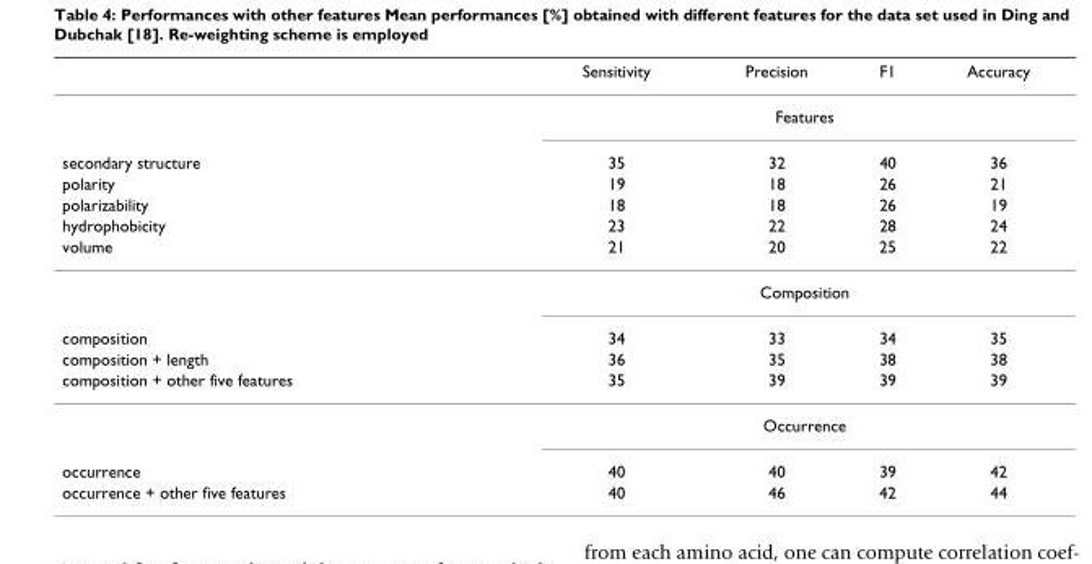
<table><thead><tr><td></td><td>Sensitivity</td><td>Precision</td><td>F1</td><td>Accuracy</td></tr></thead><tbody><tr><td></td><td colspan="4">Features</td></tr><tr><td>secondary structure</td><td>35</td><td>32</td><td>40</td><td>36</td></tr><tr><td>polarity</td><td>19</td><td>18</td><td>26</td><td>21</td></tr><tr><td>polarizability</td><td>18</td><td>18</td><td>26</td><td>19</td></tr><tr><td>hydrophobicity</td><td>23</td><td>22</td><td>28</td><td>24</td></tr><tr><td rowspan="2">volume</td><td>21</td><td>20</td><td>25</td><td>22</td></tr><tr><td colspan="4">Composition</td></tr><tr><td>composition</td><td>34</td><td>33</td><td>34</td><td>35</td></tr><tr><td>composition + length</td><td>36</td><td>35</td><td>38</td><td>38</td></tr><tr><td rowspan="2">composition + other five features</td><td>35</td><td>39</td><td>39</td><td>39</td></tr><tr><td colspan="4">Occurrence</td></tr><tr><td>occurrence</td><td>40</td><td>40</td><td>39</td><td>42</td></tr><tr><td>occurrence + other five features</td><td>40</td><td>46</td><td>42</td><td>44</td></tr></tbody></table>